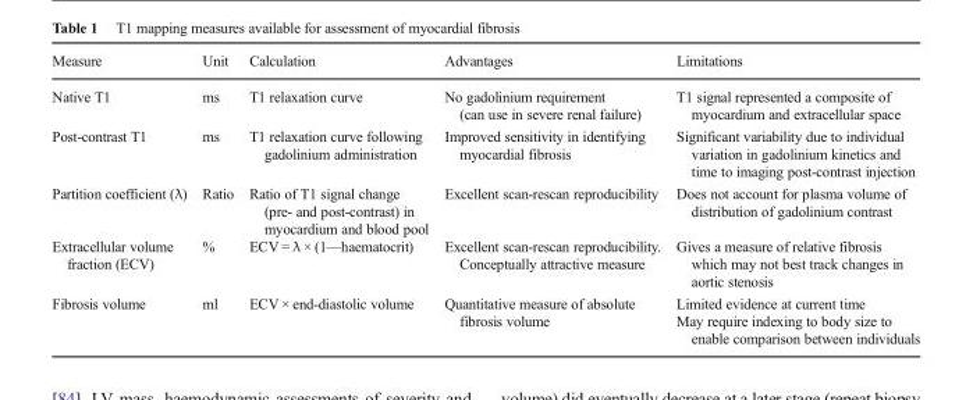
<table><thead><tr><td>Measure</td><td>Unit</td><td>Calculation</td><td>Advantages</td><td>Limitations</td></tr></thead><tbody><tr><td>Native T1</td><td>ms</td><td>T1 relaxation curve</td><td>No gadolinium requirement (can use in severe renal failure)</td><td>T1 signal represented a composite of myocardium and extracellular space</td></tr><tr><td>Post-contrast T1</td><td>ms</td><td>T1 relaxation curve following gadolinium administration</td><td>Improved sensitivity in identifying myocardial fibrosis</td><td>Significant variability due to individual variation in gadolinium kinetics and time to imaging post-contrast injection</td></tr><tr><td>Partition coefficient (λ)</td><td>Ratio</td><td>Ratio of T1 signal change (pre- and post-contrast) in myocardium and blood pool</td><td>Excellent scan-rescan reproducibility</td><td>Does not account for plasma volume of distribution of gadolinium contrast</td></tr><tr><td>Extracellular volume fraction (ECV)</td><td>%</td><td>ECV = λ × (1—haematocrit)</td><td>Excellent scan-rescan reproducibility. Conceptually attractive measure</td><td>Gives a measure of relative fibrosis which may not best track changes in aortic stenosis</td></tr><tr><td>Fibrosis volume</td><td>ml</td><td>ECV × end-diastolic volume</td><td>Quantitative measure of absolute fibrosis volume</td><td>Limited evidence at current time May require indexing to body size to enable comparison between individuals</td></tr></tbody></table>